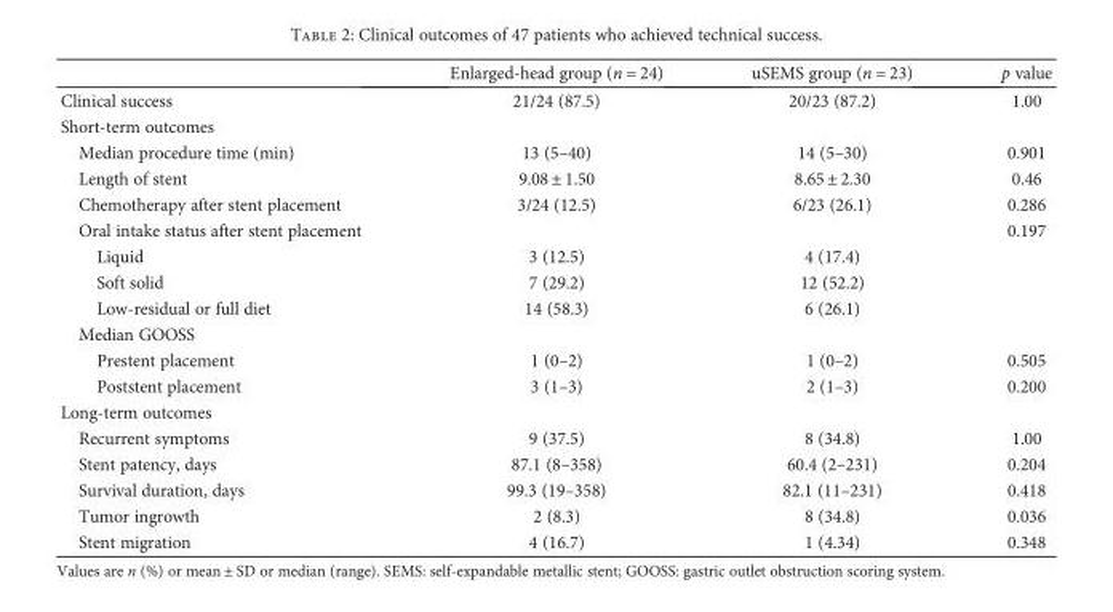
<table><thead><tr><td></td><td>Enlarged-head group (n = 24)</td><td>uSEMS group (n = 23)</td><td>p value</td></tr></thead><tbody><tr><td>Clinical success</td><td>21/24 (87.5)</td><td>20/23 (87.2)</td><td>1.00</td></tr><tr><td colspan="4">Short-term outcomes</td></tr><tr><td>Median procedure time (min)</td><td>13 (5–40)</td><td>14 (5–30)</td><td>0.901</td></tr><tr><td>Length of stent</td><td>9.08 ± 1.50</td><td>8.65 ± 2.30</td><td>0.46</td></tr><tr><td>Chemotherapy after stent placement</td><td>3/24 (12.5)</td><td>6/23 (26.1)</td><td>0.286</td></tr><tr><td>Oral intake status after stent placement</td><td></td><td></td><td>0.197</td></tr><tr><td>Liquid</td><td>3 (12.5)</td><td>4 (17.4)</td><td></td></tr><tr><td>Soft solid</td><td>7 (29.2)</td><td>12 (52.2)</td><td></td></tr><tr><td>Low-residual or full diet</td><td>14 (58.3)</td><td>6 (26.1)</td><td></td></tr><tr><td colspan="4">Median GOOSS</td></tr><tr><td>Prestent placement</td><td>1 (0–2)</td><td>1 (0–2)</td><td>0.505</td></tr><tr><td>Poststent placement</td><td>3 (1–3)</td><td>2 (1–3)</td><td>0.200</td></tr><tr><td colspan="4">Long-term outcomes</td></tr><tr><td>Recurrent symptoms</td><td>9 (37.5)</td><td>8 (34.8)</td><td>1.00</td></tr><tr><td>Stent patency, days</td><td>87.1 (8–358)</td><td>60.4 (2–231)</td><td>0.204</td></tr><tr><td>Survival duration, days</td><td>99.3 (19–358)</td><td>82.1 (11–231)</td><td>0.418</td></tr><tr><td>Tumor ingrowth</td><td>2 (8.3)</td><td>8 (34.8)</td><td>0.036</td></tr><tr><td>Stent migration</td><td>4 (16.7)</td><td>1 (4.34)</td><td>0.348</td></tr></tbody></table>